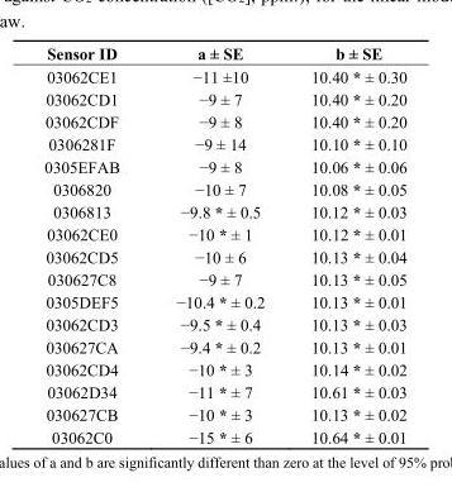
<table><thead><tr><td>Sensor ID</td><td>a ± SE</td><td>b ± SE</td></tr></thead><tbody><tr><td>03062CE1</td><td>−11 ±10</td><td>10.40 * ± 0.30</td></tr><tr><td>03062CD1</td><td>−9 ± 7</td><td>10.40 * ± 0.20</td></tr><tr><td>03062CDF</td><td>−9 ± 8</td><td>10.40 * ± 0.20</td></tr><tr><td>0306281F</td><td>−9 ± 14</td><td>10.10 * ± 0.10</td></tr><tr><td>0305EFAB</td><td>−9 ± 8</td><td>10.06 * ± 0.06</td></tr><tr><td>0306820</td><td>−10 ± 7</td><td>10.08 * ± 0.05</td></tr><tr><td>0306813</td><td>−9.8 * ± 0.5</td><td>10.12 * ± 0.03</td></tr><tr><td>03062CE0</td><td>−10 * ± 1</td><td>10.12 * ± 0.01</td></tr><tr><td>03062CD5</td><td>−10 ± 6</td><td>10.13 * ± 0.04</td></tr><tr><td>030627C8</td><td>−9 ± 7</td><td>10.13 * ± 0.05</td></tr><tr><td>0305DEF5</td><td>−10.4 * ± 0.2</td><td>10.13 * ± 0.01</td></tr><tr><td>03062CD3</td><td>−9.5 * ± 0.4</td><td>10.13 * ± 0.03</td></tr><tr><td>030627CA</td><td>−9.4 * ± 0.2</td><td>10.13 * ± 0.01</td></tr><tr><td>03062CD4</td><td>−10 * ± 3</td><td>10.14 * ± 0.02</td></tr><tr><td>03062D34</td><td>−11 * ± 7</td><td>10.61 * ± 0.03</td></tr><tr><td>030627CB</td><td>−10 * ± 3</td><td>10.13 * ± 0.02</td></tr><tr><td>03062C0</td><td>−15 * ± 6</td><td>10.64 * ± 0.01</td></tr></tbody></table>